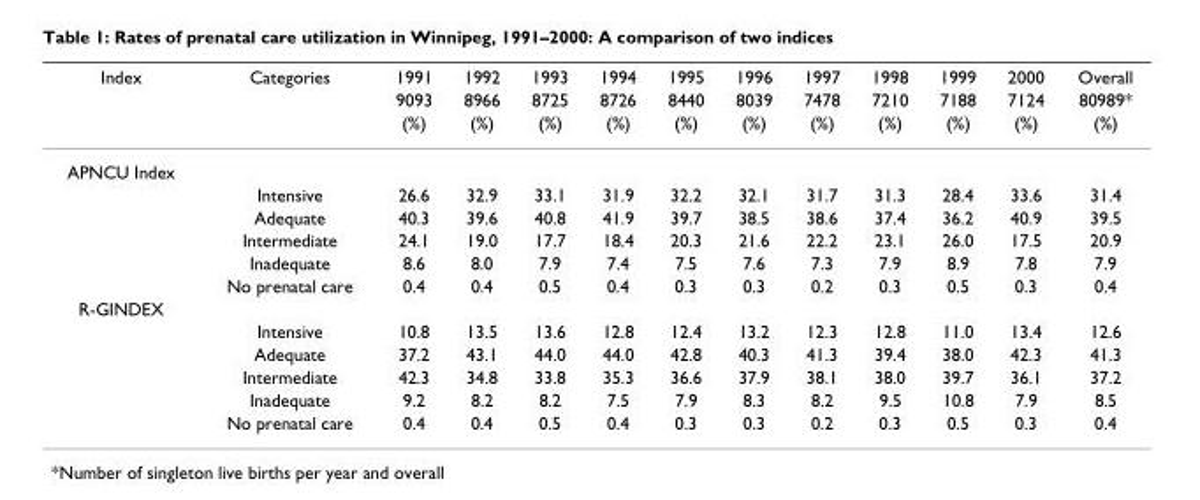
<table><thead><tr><td rowspan="3">Index</td><td rowspan="3">Categories</td><td rowspan="3">1991 9093 (%)</td><td rowspan="3">1992 8966 (%)</td><td rowspan="3">1993 8725 (%)</td><td rowspan="3">1994 8726 (%)</td><td rowspan="3">1995 8440 (%)</td><td rowspan="3">1996 8039 (%)</td><td rowspan="3">1997 7478 (%)</td><td rowspan="3">1998 7210 (%)</td><td rowspan="3">1999 7188 (%)</td><td rowspan="3">2000 7124 (%)</td><td rowspan="3">Overall 80989* (%)</td></tr><tr></tr><tr></tr></thead><tbody><tr><td colspan="13">APNCU Index</td></tr><tr><td></td><td>Intensive</td><td>26.6</td><td>32.9</td><td>33.1</td><td>31.9</td><td>32.2</td><td>32.1</td><td>31.7</td><td>31.3</td><td>28.4</td><td>33.6</td><td>31.4</td></tr><tr><td></td><td>Adequate</td><td>40.3</td><td>39.6</td><td>40.8</td><td>41.9</td><td>39.7</td><td>38.5</td><td>38.6</td><td>37.4</td><td>36.2</td><td>40.9</td><td>39.5</td></tr><tr><td></td><td>Intermediate</td><td>24.1</td><td>19.0</td><td>17.7</td><td>18.4</td><td>20.3</td><td>21.6</td><td>22.2</td><td>23.1</td><td>26.0</td><td>17.5</td><td>20.9</td></tr><tr><td></td><td>Inadequate</td><td>8.6</td><td>8.0</td><td>7.9</td><td>7.4</td><td>7.5</td><td>7.6</td><td>7.3</td><td>7.9</td><td>8.9</td><td>7.8</td><td>7.9</td></tr><tr><td></td><td>No prenatal care</td><td>0.4</td><td>0.4</td><td>0.5</td><td>0.4</td><td>0.3</td><td>0.3</td><td>0.2</td><td>0.3</td><td>0.5</td><td>0.3</td><td>0.4</td></tr><tr><td colspan="13">R-GINDEX</td></tr><tr><td></td><td>Intensive</td><td>10.8</td><td>13.5</td><td>13.6</td><td>12.8</td><td>12.4</td><td>13.2</td><td>12.3</td><td>12.8</td><td>11.0</td><td>13.4</td><td>12.6</td></tr><tr><td></td><td>Adequate</td><td>37.2</td><td>43.1</td><td>44.0</td><td>44.0</td><td>42.8</td><td>40.3</td><td>41.3</td><td>39.4</td><td>38.0</td><td>42.3</td><td>41.3</td></tr><tr><td></td><td>Intermediate</td><td>42.3</td><td>34.8</td><td>33.8</td><td>35.3</td><td>36.6</td><td>37.9</td><td>38.1</td><td>38.0</td><td>39.7</td><td>36.1</td><td>37.2</td></tr><tr><td></td><td>Inadequate</td><td>9.2</td><td>8.2</td><td>8.2</td><td>7.5</td><td>7.9</td><td>8.3</td><td>8.2</td><td>9.5</td><td>10.8</td><td>7.9</td><td>8.5</td></tr><tr><td></td><td>No prenatal care</td><td>0.4</td><td>0.4</td><td>0.5</td><td>0.4</td><td>0.3</td><td>0.3</td><td>0.2</td><td>0.3</td><td>0.5</td><td>0.3</td><td>0.4</td></tr></tbody></table>